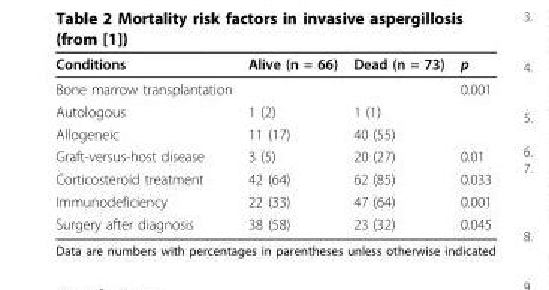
<table><thead><tr><td>Conditions</td><td>Alive (n = 66)</td><td>Dead (n = 73)</td><td>p</td></tr></thead><tbody><tr><td>Bone marrow transplantation</td><td></td><td></td><td>0.001</td></tr><tr><td>Autologous</td><td>1 (2)</td><td>1 (1)</td><td></td></tr><tr><td>Allogeneic</td><td>11 (17)</td><td>40 (55)</td><td></td></tr><tr><td>Graft-versus-host disease</td><td>3 (5)</td><td>20 (27)</td><td>0.01</td></tr><tr><td>Corticosteroid treatment</td><td>42 (64)</td><td>62 (85)</td><td>0.033</td></tr><tr><td>Immunodeficiency</td><td>22 (33)</td><td>47 (64)</td><td>0.001</td></tr><tr><td>Surgery after diagnosis</td><td>38 (58)</td><td>23 (32)</td><td>0.045</td></tr></tbody></table>